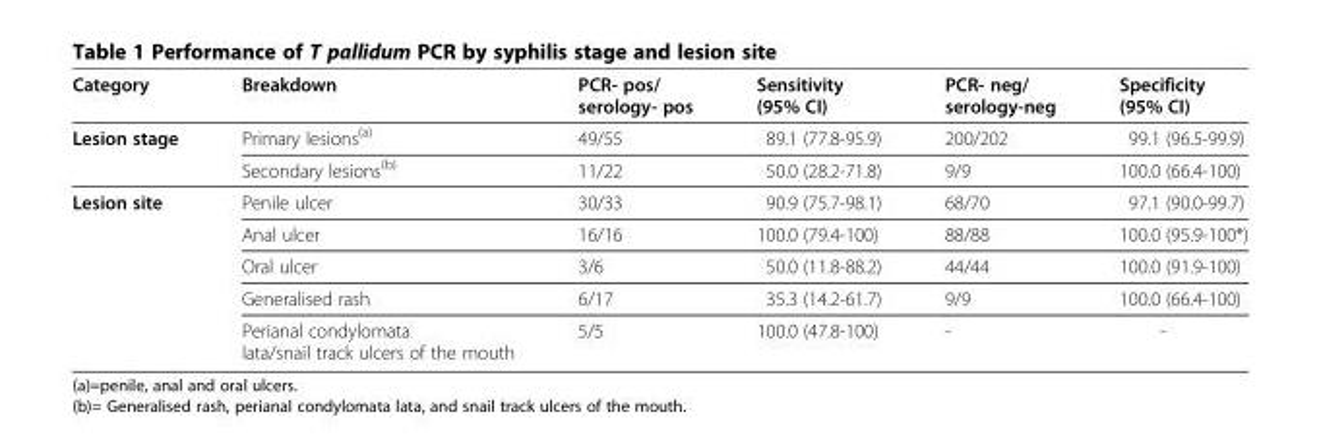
<table><thead><tr><td>Category</td><td>Breakdown</td><td>PCR- pos/ serology- pos</td><td>Sensitivity (95% CI)</td><td>PCR- neg/ serology-neg</td><td>Specificity (95% CI)</td></tr></thead><tbody><tr><td rowspan="2">Lesion stage</td><td>Primary lesions<sup>(a)</sup></td><td>49/55</td><td>89.1 (77.8-95.9)</td><td>200/202</td><td>99.1 (96.5-99.9)</td></tr><tr><td>Secondary lesions<sup>(b)</sup></td><td>11/22</td><td>50.0 (28.2-71.8)</td><td>9/9</td><td>100.0 (66.4-100)</td></tr><tr><td rowspan="5">Lesion site</td><td>Penile ulcer</td><td>30/33</td><td>90.9 (75.7-98.1)</td><td>68/70</td><td>97.1 (90.0-99.7)</td></tr><tr><td>Anal ulcer</td><td>16/16</td><td>100.0 (79.4-100)</td><td>88/88</td><td>100.0 (95.9-100*)</td></tr><tr><td>Oral ulcer</td><td>3/6</td><td>50.0 (11.8-88.2)</td><td>44/44</td><td>100.0 (91.9-100)</td></tr><tr><td>Generalised rash</td><td>6/17</td><td>35.3 (14.2-61.7)</td><td>9/9</td><td>100.0 (66.4-100)</td></tr><tr><td>Perianal condylomata lata/snail track ulcers of the mouth</td><td>5/5</td><td>100.0 (47.8-100)</td><td>-</td><td>-</td></tr></tbody></table>